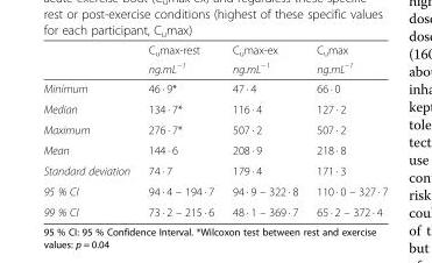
<table><thead><tr><td rowspan="2"></td><td rowspan="2">Cumax-rest ng.mL−1</td><td rowspan="2">Cumax-ex ng.mL−1</td><td rowspan="2">Cumax ng.mL–1</td></tr><tr></tr></thead><tbody><tr><td>Minimum</td><td>46 · 9*</td><td>47 · 4</td><td>66 · 0</td></tr><tr><td>Median</td><td>134 · 7*</td><td>116 · 4</td><td>127 · 2</td></tr><tr><td>Maximum</td><td>276 · 7*</td><td>507 · 2</td><td>507 · 2</td></tr><tr><td>Mean</td><td>144 · 6</td><td>208 · 9</td><td>218 · 8</td></tr><tr><td>Standard deviation</td><td>74 · 7</td><td>179 · 4</td><td>171 · 3</td></tr><tr><td>95 % CI</td><td>94 · 4 – 194 · 7</td><td>94 · 9 – 322 · 8</td><td>110 · 0 – 327 · 7</td></tr><tr><td>99 % CI</td><td>73 · 2 – 215 · 6</td><td>48 · 1 – 369 · 7</td><td>65 · 2 – 372 · 4</td></tr></tbody></table>